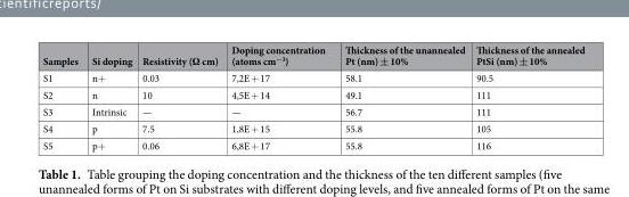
<table><thead><tr><td>Samples</td><td>Si doping</td><td>Resistivity (Ω cm)</td><td>Doping concentration (atoms cm<sup>−3</sup>)</td><td>Thickness of the unannealed Pt (nm) ± 10%</td><td>Thickness of the annealed PtSi (nm) ± 10%</td></tr></thead><tbody><tr><td>S1</td><td>n+</td><td>0.03</td><td>7,2E + 17</td><td>58.1</td><td>90.5</td></tr><tr><td>S2</td><td>n</td><td>10</td><td>4,5E + 14</td><td>49.1</td><td>111</td></tr><tr><td>S3</td><td>Intrinsic</td><td>—</td><td>—</td><td>56.7</td><td>111</td></tr><tr><td>S4</td><td>p</td><td>7.5</td><td>1,8E + 15</td><td>55.8</td><td>105</td></tr><tr><td>S5</td><td>p+</td><td>0.06</td><td>6,8E + 17</td><td>55.8</td><td>116</td></tr></tbody></table>